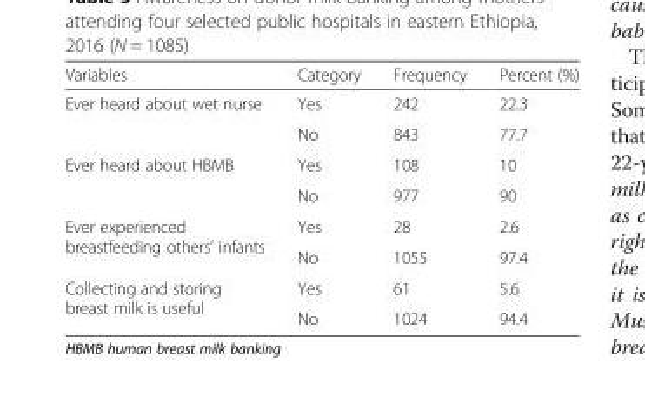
<table><thead><tr><td>Variables</td><td>Category</td><td>Frequency</td><td>Percent (%)</td></tr></thead><tbody><tr><td rowspan="2">Ever heard about wet nurse</td><td>Yes</td><td>242</td><td>22.3</td></tr><tr><td>No</td><td>843</td><td>77.7</td></tr><tr><td rowspan="2">Ever heard about HBMB</td><td>Yes</td><td>108</td><td>10</td></tr><tr><td>No</td><td>977</td><td>90</td></tr><tr><td rowspan="2">Ever experienced breastfeeding others’ infants</td><td>Yes</td><td>28</td><td>2.6</td></tr><tr><td>No</td><td>1055</td><td>97.4</td></tr><tr><td rowspan="2">Collecting and storing breast milk is useful</td><td>Yes</td><td>61</td><td>5.6</td></tr><tr><td>No</td><td>1024</td><td>94.4</td></tr></tbody></table>